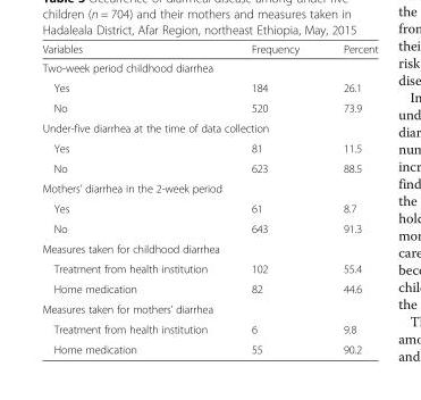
<table><thead><tr><td>Variables</td><td>Frequency</td><td>Percent</td></tr></thead><tbody><tr><td colspan="3">Two-week period childhood diarrhea</td></tr><tr><td>Yes</td><td>184</td><td>26.1</td></tr><tr><td>No</td><td>520</td><td>73.9</td></tr><tr><td colspan="3">Under-five diarrhea at the time of data collection</td></tr><tr><td>Yes</td><td>81</td><td>11.5</td></tr><tr><td>No</td><td>623</td><td>88.5</td></tr><tr><td colspan="3">Mothers’ diarrhea in the 2-week period</td></tr><tr><td>Yes</td><td>61</td><td>8.7</td></tr><tr><td>No</td><td>643</td><td>91.3</td></tr><tr><td colspan="3">Measures taken for childhood diarrhea</td></tr><tr><td>Treatment from health institution</td><td>102</td><td>55.4</td></tr><tr><td>Home medication</td><td>82</td><td>44.6</td></tr><tr><td colspan="3">Measures taken for mothers’ diarrhea</td></tr><tr><td>Treatment from health institution</td><td>6</td><td>9.8</td></tr><tr><td>Home medication</td><td>55</td><td>90.2</td></tr></tbody></table>